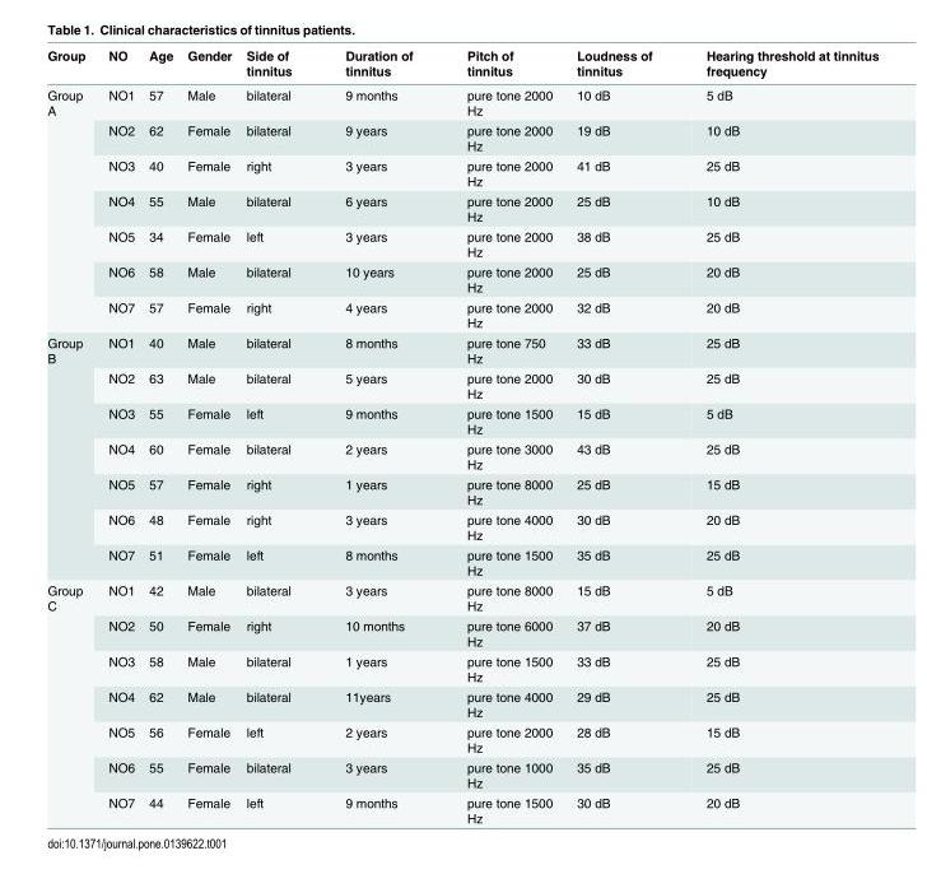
<table><thead><tr><td>Group</td><td>NO</td><td>Age</td><td>Gender</td><td>Side of tinnitus</td><td>Duration of tinnitus</td><td>Pitch of tinnitus</td><td>Loudness of tinnitus</td><td>Hearing threshold at tinnitus frequency</td></tr></thead><tbody><tr><td rowspan="7">Group A</td><td>NO1</td><td>57</td><td>Male</td><td>bilateral</td><td>9 months</td><td>pure tone 2000 Hz</td><td>10 dB</td><td>5 dB</td></tr><tr><td>NO2</td><td>62</td><td>Female</td><td>bilateral</td><td>9 years</td><td>pure tone 2000 Hz</td><td>19 dB</td><td>10 dB</td></tr><tr><td>NO3</td><td>40</td><td>Female</td><td>right</td><td>3 years</td><td>pure tone 2000 Hz</td><td>41 dB</td><td>25 dB</td></tr><tr><td>NO4</td><td>55</td><td>Male</td><td>bilateral</td><td>6 years</td><td>pure tone 2000 Hz</td><td>25 dB</td><td>10 dB</td></tr><tr><td>NO5</td><td>34</td><td>Female</td><td>left</td><td>3 years</td><td>pure tone 2000 Hz</td><td>38 dB</td><td>25 dB</td></tr><tr><td>NO6</td><td>58</td><td>Male</td><td>bilateral</td><td>10 years</td><td>pure tone 2000 Hz</td><td>25 dB</td><td>20 dB</td></tr><tr><td>NO7</td><td>57</td><td>Female</td><td>right</td><td>4 years</td><td>pure tone 2000 Hz</td><td>32 dB</td><td>20 dB</td></tr><tr><td rowspan="7">Group B</td><td>NO1</td><td>40</td><td>Male</td><td>bilateral</td><td>8 months</td><td>pure tone 750 Hz</td><td>33 dB</td><td>25 dB</td></tr><tr><td>NO2</td><td>63</td><td>Male</td><td>bilateral</td><td>5 years</td><td>pure tone 2000 Hz</td><td>30 dB</td><td>25 dB</td></tr><tr><td>NO3</td><td>55</td><td>Female</td><td>left</td><td>9 months</td><td>pure tone 1500 Hz</td><td>15 dB</td><td>5 dB</td></tr><tr><td>NO4</td><td>60</td><td>Female</td><td>bilateral</td><td>2 years</td><td>pure tone 3000 Hz</td><td>43 dB</td><td>25 dB</td></tr><tr><td>NO5</td><td>57</td><td>Female</td><td>right</td><td>1 years</td><td>pure tone 8000 Hz</td><td>25 dB</td><td>15 dB</td></tr><tr><td>NO6</td><td>48</td><td>Female</td><td>right</td><td>3 years</td><td>pure tone 4000 Hz</td><td>30 dB</td><td>20 dB</td></tr><tr><td>NO7</td><td>51</td><td>Female</td><td>left</td><td>8 months</td><td>pure tone 1500 Hz</td><td>35 dB</td><td>25 dB</td></tr><tr><td rowspan="7">Group C</td><td>NO1</td><td>42</td><td>Male</td><td>bilateral</td><td>3 years</td><td>pure tone 8000 Hz</td><td>15 dB</td><td>5 dB</td></tr><tr><td>NO2</td><td>50</td><td>Female</td><td>right</td><td>10 months</td><td>pure tone 6000 Hz</td><td>37 dB</td><td>20 dB</td></tr><tr><td>NO3</td><td>58</td><td>Male</td><td>bilateral</td><td>1 years</td><td>pure tone 1500 Hz</td><td>33 dB</td><td>25 dB</td></tr><tr><td>NO4</td><td>62</td><td>Male</td><td>bilateral</td><td>11years</td><td>pure tone 4000 Hz</td><td>29 dB</td><td>25 dB</td></tr><tr><td>NO5</td><td>56</td><td>Female</td><td>left</td><td>2 years</td><td>pure tone 2000 Hz</td><td>28 dB</td><td>15 dB</td></tr><tr><td>NO6</td><td>55</td><td>Female</td><td>bilateral</td><td>3 years</td><td>pure tone 1000 Hz</td><td>35 dB</td><td>25 dB</td></tr><tr><td>NO7</td><td>44</td><td>Female</td><td>left</td><td>9 months</td><td>pure tone 1500 Hz</td><td>30 dB</td><td>20 dB</td></tr></tbody></table>